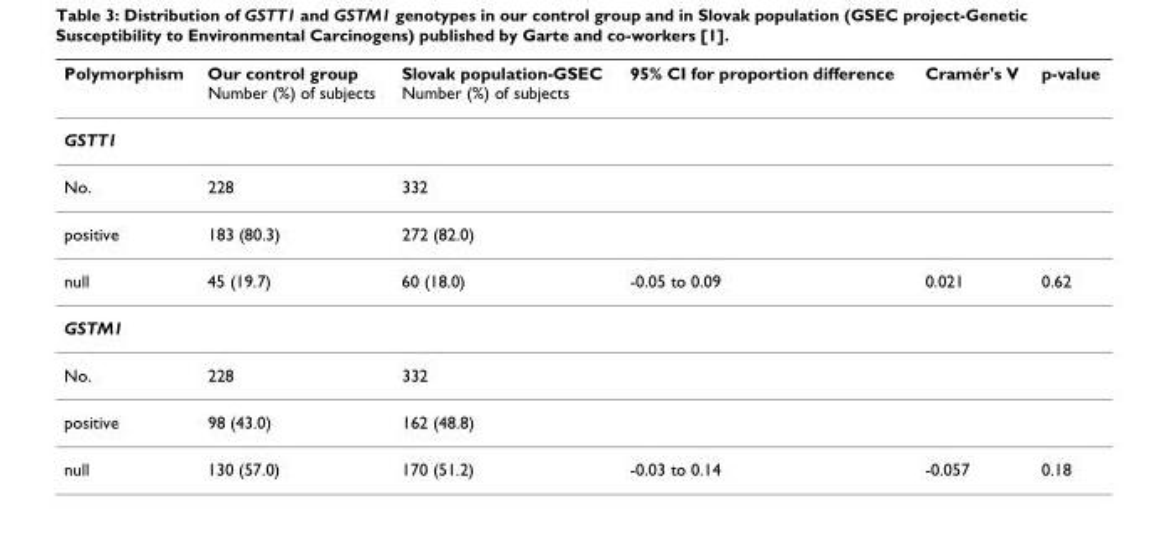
<table><thead><tr><td>Polymorphism</td><td>Our control group Number (%) of subjects</td><td>Slovak population-GSEC Number (%) of subjects</td><td>95% CI for proportion difference</td><td>Cramér&#x27;s V</td><td>p-value</td></tr></thead><tbody><tr><td colspan="6">GSTT1</td></tr><tr><td>No.</td><td>228</td><td>332</td><td></td><td></td><td></td></tr><tr><td>positive</td><td>183 (80.3)</td><td>272 (82.0)</td><td></td><td></td><td></td></tr><tr><td>null</td><td>45 (19.7)</td><td>60 (18.0)</td><td>-0.05 to 0.09</td><td>0.021</td><td>0.62</td></tr><tr><td colspan="6">GSTM1</td></tr><tr><td>No.</td><td>228</td><td>332</td><td></td><td></td><td></td></tr><tr><td>positive</td><td>98 (43.0)</td><td>162 (48.8)</td><td></td><td></td><td></td></tr><tr><td>null</td><td>130 (57.0)</td><td>170 (51.2)</td><td>-0.03 to 0.14</td><td>-0.057</td><td>0.18</td></tr></tbody></table>